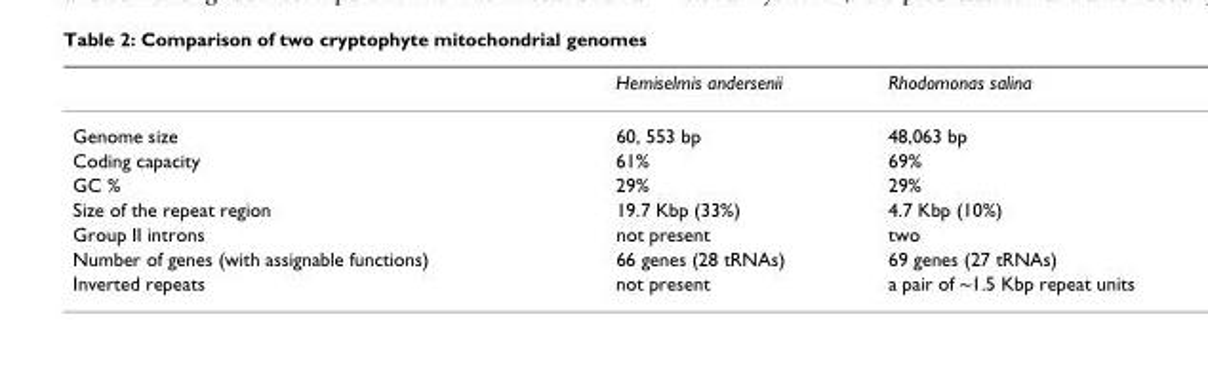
<table><thead><tr><td></td><td>Hemiselmis andersenii</td><td>Rhodomonas salina</td></tr></thead><tbody><tr><td>Genome size</td><td>60, 553 bp</td><td>48,063 bp</td></tr><tr><td>Coding capacity</td><td>61%</td><td>69%</td></tr><tr><td>GC %</td><td>29%</td><td>29%</td></tr><tr><td>Size of the repeat region</td><td>19.7 Kbp (33%)</td><td>4.7 Kbp (10%)</td></tr><tr><td>Group II introns</td><td>not present</td><td>two</td></tr><tr><td>Number of genes (with assignable functions)</td><td>66 genes (28 tRNAs)</td><td>69 genes (27 tRNAs)</td></tr><tr><td>Inverted repeats</td><td>not present</td><td>a pair of ~1.5 Kbp repeat units</td></tr></tbody></table>